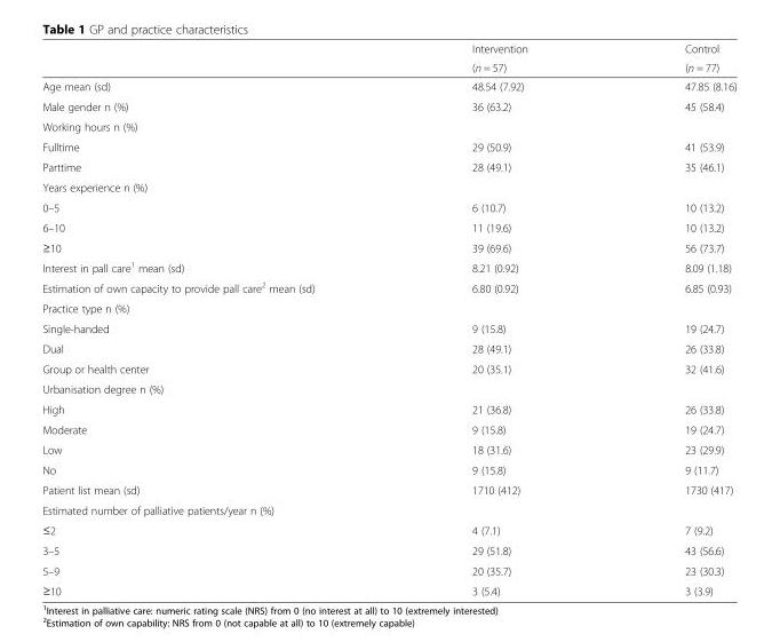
<table><thead><tr><td rowspan="2"></td><td rowspan="2">Intervention (n = 57)</td><td rowspan="2">Control (n = 77)</td></tr><tr></tr></thead><tbody><tr><td>Age mean (sd)</td><td>48.54 (7.92)</td><td>47.85 (8.16)</td></tr><tr><td>Male gender n (%)</td><td>36 (63.2)</td><td>45 (58.4)</td></tr><tr><td colspan="3">Working hours n (%)</td></tr><tr><td>Fulltime</td><td>29 (50.9)</td><td>41 (53.9)</td></tr><tr><td>Parttime</td><td>28 (49.1)</td><td>35 (46.1)</td></tr><tr><td colspan="3">Years experience n (%)</td></tr><tr><td>0–5</td><td>6 (10.7)</td><td>10 (13.2)</td></tr><tr><td>6–10</td><td>11 (19.6)</td><td>10 (13.2)</td></tr><tr><td>≥10</td><td>39 (69.6)</td><td>56 (73.7)</td></tr><tr><td>Interest in pall care<sup>1</sup> mean (sd)</td><td>8.21 (0.92)</td><td>8.09 (1.18)</td></tr><tr><td>Estimation of own capacity to provide pall care<sup>2</sup> mean (sd)</td><td>6.80 (0.92)</td><td>6.85 (0.93)</td></tr><tr><td colspan="3">Practice type n (%)</td></tr><tr><td>Single-handed</td><td>9 (15.8)</td><td>19 (24.7)</td></tr><tr><td>Dual</td><td>28 (49.1)</td><td>26 (33.8)</td></tr><tr><td>Group or health center</td><td>20 (35.1)</td><td>32 (41.6)</td></tr><tr><td colspan="3">Urbanisation degree n (%)</td></tr><tr><td>High</td><td>21 (36.8)</td><td>26 (33.8)</td></tr><tr><td>Moderate</td><td>9 (15.8)</td><td>19 (24.7)</td></tr><tr><td>Low</td><td>18 (31.6)</td><td>23 (29.9)</td></tr><tr><td>No</td><td>9 (15.8)</td><td>9 (11.7)</td></tr><tr><td>Patient list mean (sd)</td><td>1710 (412)</td><td>1730 (417)</td></tr><tr><td colspan="3">Estimated number of palliative patients/year n (%)</td></tr><tr><td>≤2</td><td>4 (7.1)</td><td>7 (9.2)</td></tr><tr><td>3–5</td><td>29 (51.8)</td><td>43 (56.6)</td></tr><tr><td>5–9</td><td>20 (35.7)</td><td>23 (30.3)</td></tr><tr><td>≥10</td><td>3 (5.4)</td><td>3 (3.9)</td></tr></tbody></table>